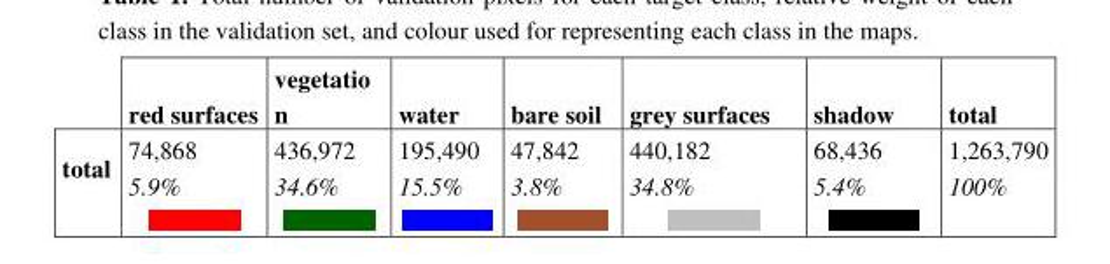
<table><thead><tr><td></td><td>red surfaces</td><td>vegetatio n</td><td>water</td><td>bare soil</td><td>grey surfaces</td><td>shadow</td><td>total</td></tr></thead><tbody><tr><td rowspan="2">total</td><td>74,868</td><td>436,972</td><td>195,490</td><td>47,842</td><td>440,182</td><td>68,436</td><td>1,263,790</td></tr><tr><td>5.9%</td><td>34.6%</td><td>15.5%</td><td>3.8%</td><td>34.8%</td><td>5.4%</td><td>100%</td></tr></tbody></table>